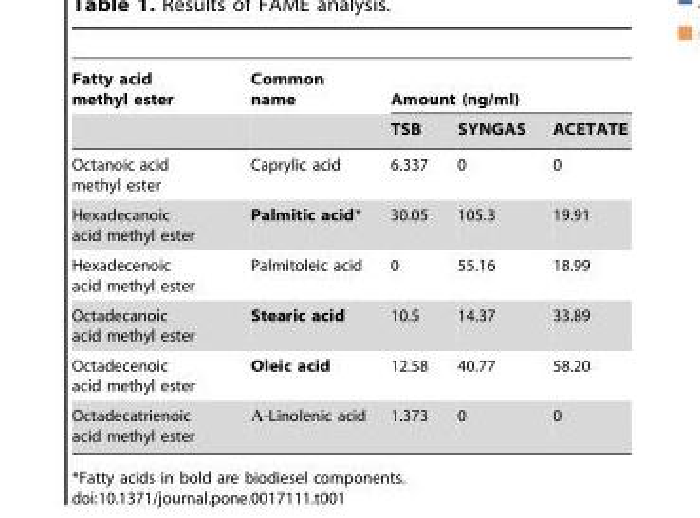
<table><thead><tr><td rowspan="2">Fatty acid methyl ester</td><td rowspan="2">Common name</td><td colspan="3">Amount (ng/ml)</td></tr><tr><td>TSB</td><td>SYNGAS</td><td>ACETATE</td></tr></thead><tbody><tr><td>Octanoic acid methyl ester</td><td>Caprylic acid</td><td>6.337</td><td>0</td><td>0</td></tr><tr><td>Hexadecanoic acid methyl ester</td><td>Palmitic acid*</td><td>30.05</td><td>105.3</td><td>19.91</td></tr><tr><td>Hexadecenoic acid methyl ester</td><td>Palmitoleic acid</td><td>0</td><td>55.16</td><td>18.99</td></tr><tr><td>Octadecanoic acid methyl ester</td><td>Stearic acid</td><td>10.5</td><td>14.37</td><td>33.89</td></tr><tr><td>Octadecenoic acid methyl ester</td><td>Oleic acid</td><td>12.58</td><td>40.77</td><td>58.20</td></tr><tr><td>Octadecatrienoic acid methyl ester</td><td>A-Linolenic acid</td><td>1.373</td><td>0</td><td>0</td></tr></tbody></table>